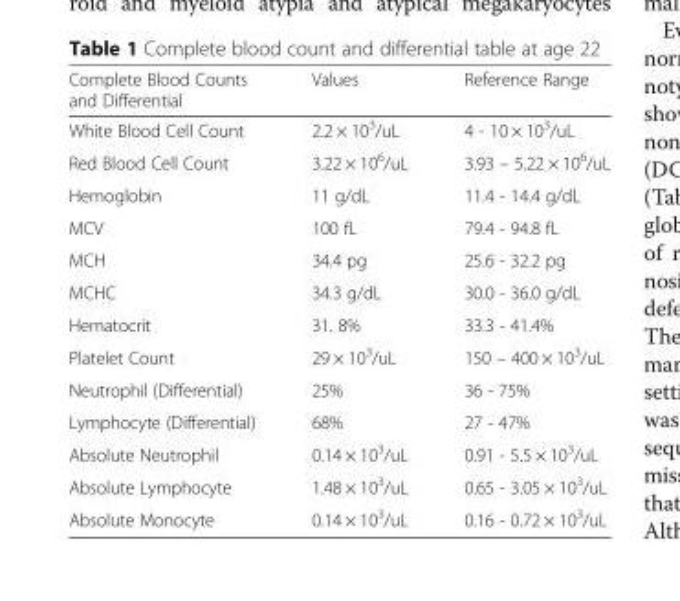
<table><thead><tr><td>Complete Blood Counts and Differential</td><td>Values</td><td>Reference Range</td></tr></thead><tbody><tr><td>White Blood Cell Count</td><td>2.2 × 10<sup>3</sup>/uL</td><td>4 - 10 × 10<sup>3</sup>/uL</td></tr><tr><td>Red Blood Cell Count</td><td>3.22 × 10<sup>6</sup>/uL</td><td>3.93 – 5.22 × 10<sup>6</sup>/uL</td></tr><tr><td>Hemoglobin</td><td>11 g/dL</td><td>11.4 - 14.4 g/dL</td></tr><tr><td>MCV</td><td>100 fL</td><td>79.4 - 94.8 fL</td></tr><tr><td>MCH</td><td>34.4 pg</td><td>25.6 - 32.2 pg</td></tr><tr><td>MCHC</td><td>34.3 g/dL</td><td>30.0 - 36.0 g/dL</td></tr><tr><td>Hematocrit</td><td>31. 8%</td><td>33.3 - 41.4%</td></tr><tr><td>Platelet Count</td><td>29 × 10<sup>3</sup>/uL</td><td>150 – 400 × 10<sup>3</sup>/uL</td></tr><tr><td>Neutrophil (Differential)</td><td>25%</td><td>36 - 75%</td></tr><tr><td>Lymphocyte (Differential)</td><td>68%</td><td>27 - 47%</td></tr><tr><td>Absolute Neutrophil</td><td>0.14 × 10<sup>3</sup>/uL</td><td>0.91 - 5.5 × 10<sup>3</sup>/uL</td></tr><tr><td>Absolute Lymphocyte</td><td>1.48 × 10<sup>3</sup>/uL</td><td>0.65 - 3.05 × 10<sup>3</sup>/uL</td></tr><tr><td>Absolute Monocyte</td><td>0.14 × 10<sup>3</sup>/uL</td><td>0.16 - 0.72 × 10<sup>3</sup>/uL</td></tr></tbody></table>